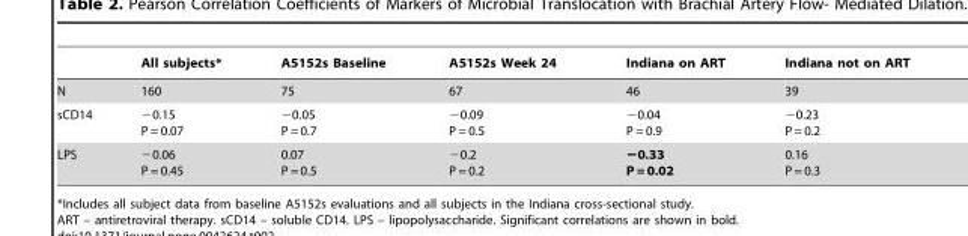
<table><thead><tr><td></td><td>All subjects*</td><td>A5152s Baseline</td><td>A5152s Week 24</td><td>Indiana on ART</td><td>Indiana not on ART</td></tr></thead><tbody><tr><td>N</td><td>160</td><td>75</td><td>67</td><td>46</td><td>39</td></tr><tr><td>sCD14</td><td>−0.15 P = 0.07</td><td>−0.05 P = 0.7</td><td>−0.09 P = 0.5</td><td>−0.04 P = 0.9</td><td>−0.23 P = 0.2</td></tr><tr><td>LPS</td><td>−0.06 P = 0.45</td><td>0.07 P = 0.5</td><td>−0.2 P = 0.2</td><td>−0.33 P = 0.02</td><td>0.16 P = 0.3</td></tr></tbody></table>